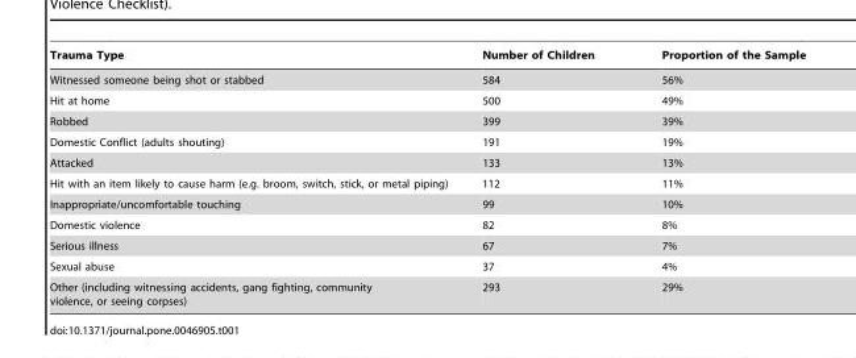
<table><thead><tr><td>Trauma Type</td><td>Number of Children</td><td>Proportion of the Sample</td></tr></thead><tbody><tr><td>Witnessed someone being shot or stabbed</td><td>584</td><td>56%</td></tr><tr><td>Hit at home</td><td>500</td><td>49%</td></tr><tr><td>Robbed</td><td>399</td><td>39%</td></tr><tr><td>Domestic Conflict (adults shouting)</td><td>191</td><td>19%</td></tr><tr><td>Attacked</td><td>133</td><td>13%</td></tr><tr><td>Hit with an item likely to cause harm (e.g. broom, switch, stick, or metal piping)</td><td>112</td><td>11%</td></tr><tr><td>Inappropriate/uncomfortable touching</td><td>99</td><td>10%</td></tr><tr><td>Domestic violence</td><td>82</td><td>8%</td></tr><tr><td>Serious illness</td><td>67</td><td>7%</td></tr><tr><td>Sexual abuse</td><td>37</td><td>4%</td></tr><tr><td>Other (including witnessing accidents, gang fighting, community violence, or seeing corpses)</td><td>293</td><td>29%</td></tr></tbody></table>